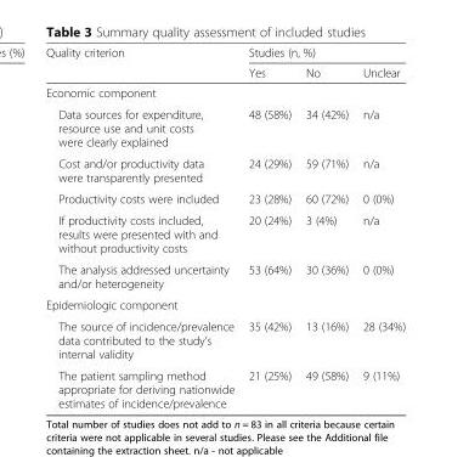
<table><thead><tr><td rowspan="2">Quality criterion</td><td colspan="3">Studies (n, %)</td></tr><tr><td>Yes</td><td>No</td><td>Unclear</td></tr></thead><tbody><tr><td colspan="4">Economic component</td></tr><tr><td>Data sources for expenditure, resource use and unit costs were clearly explained</td><td>48 (58%)</td><td>34 (42%)</td><td>n/a</td></tr><tr><td>Cost and/or productivity data were transparently presented</td><td>24 (29%)</td><td>59 (71%)</td><td>n/a</td></tr><tr><td>Productivity costs were included</td><td>23 (28%)</td><td>60 (72%)</td><td>0 (0%)</td></tr><tr><td>If productivity costs included, results were presented with and without productivity costs</td><td>20 (24%)</td><td>3 (4%)</td><td>n/a</td></tr><tr><td>The analysis addressed uncertainty and/or heterogeneity</td><td>53 (64%)</td><td>30 (36%)</td><td>0 (0%)</td></tr><tr><td colspan="4">Epidemiologic component</td></tr><tr><td>The source of incidence/prevalence data contributed to the study’s internal validity</td><td>35 (42%)</td><td>13 (16%)</td><td>28 (34%)</td></tr><tr><td>The patient sampling method appropriate for deriving nationwide estimates of incidence/prevalence</td><td>21 (25%)</td><td>49 (58%)</td><td>9 (11%)</td></tr></tbody></table>